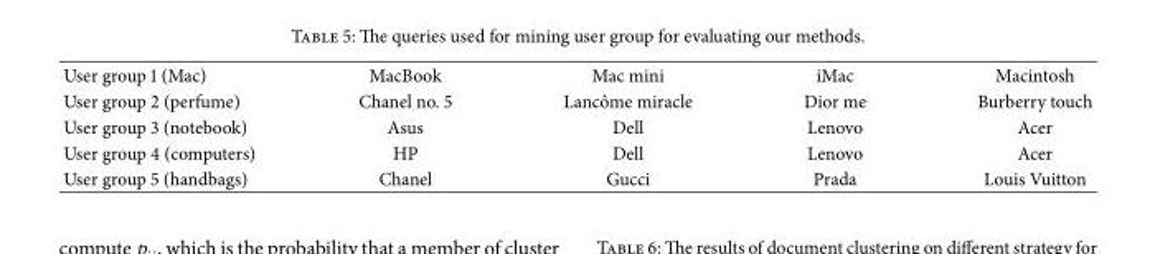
<table><tbody><tr><td>User group 1 (Mac)</td><td>MacBook</td><td>Mac mini</td><td>iMac</td><td>Macintosh</td></tr><tr><td>User group 2 (perfume)</td><td>Chanel no. 5</td><td>Lancˆome miracle</td><td>Dior me</td><td>Burberry touch</td></tr><tr><td>User group 3 (notebook)</td><td>Asus</td><td>Dell</td><td>Lenovo</td><td>Acer</td></tr><tr><td>User group 4 (computers)</td><td>HP</td><td>Dell</td><td>Lenovo</td><td>Acer</td></tr><tr><td>User group 5 (handbags)</td><td>Chanel</td><td>Gucci</td><td>Prada</td><td>Louis Vuitton</td></tr></tbody></table>